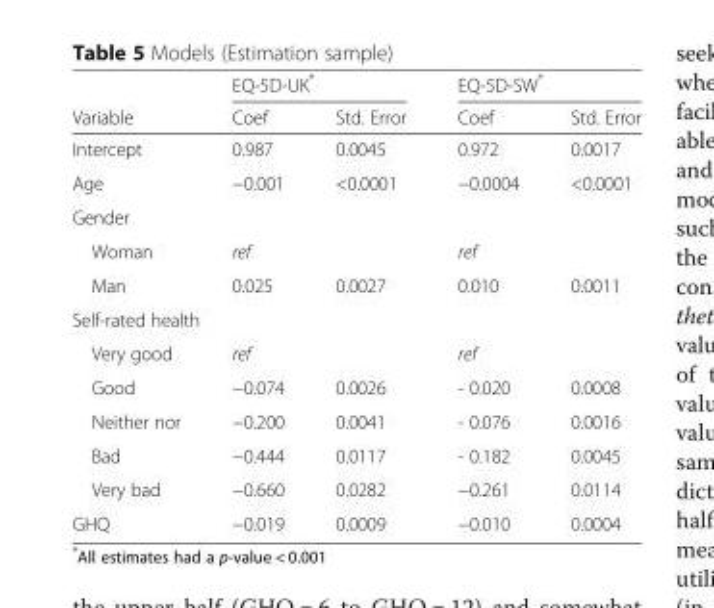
<table><thead><tr><td rowspan="2">Variable</td><td colspan="2">EQ-5D-UK*</td><td colspan="2">EQ-5D-SW*</td></tr><tr><td>Coef</td><td>Std. Error</td><td>Coef</td><td>Std. Error</td></tr></thead><tbody><tr><td>Intercept</td><td>0.987</td><td>0.0045</td><td>0.972</td><td>0.0017</td></tr><tr><td>Age</td><td>−0.001</td><td>&lt;0.0001</td><td>−0.0004</td><td>&lt;0.0001</td></tr><tr><td colspan="5">Gender</td></tr><tr><td>Woman</td><td>ref</td><td></td><td>ref</td><td></td></tr><tr><td>Man</td><td>0.025</td><td>0.0027</td><td>0.010</td><td>0.0011</td></tr><tr><td colspan="5">Self-rated health</td></tr><tr><td>Very good</td><td>ref</td><td></td><td>ref</td><td></td></tr><tr><td>Good</td><td>−0.074</td><td>0.0026</td><td>- 0.020</td><td>0.0008</td></tr><tr><td>Neither nor</td><td>−0.200</td><td>0.0041</td><td>- 0.076</td><td>0.0016</td></tr><tr><td>Bad</td><td>−0.444</td><td>0.0117</td><td>- 0.182</td><td>0.0045</td></tr><tr><td>Very bad</td><td>−0.660</td><td>0.0282</td><td>−0.261</td><td>0.0114</td></tr><tr><td>GHQ</td><td>−0.019</td><td>0.0009</td><td>−0.010</td><td>0.0004</td></tr></tbody></table>